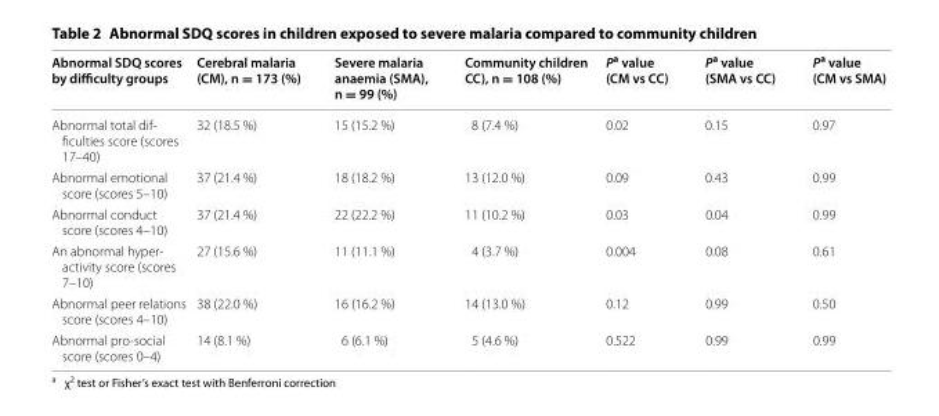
<table><thead><tr><td>Abnormal SDQ scores by difficulty groups</td><td>Cerebral malaria (CM), n = 173 (%)</td><td>Severe malaria anaemia (SMA), n = 99 (%)</td><td>Community children CC), n = 108 (%)</td><td>P<sup>a</sup> value (CM vs CC)</td><td>P<sup>a</sup> value (SMA vs CC)</td><td>P<sup>a</sup> value (CM vs SMA)</td></tr></thead><tbody><tr><td>Abnormal total dif‑ ficulties score (scores 17–40)</td><td>32 (18.5 %)</td><td>15 (15.2 %)</td><td>8 (7.4 %)</td><td>0.02</td><td>0.15</td><td>0.97</td></tr><tr><td>Abnormal emotional score (scores 5–10)</td><td>37 (21.4 %)</td><td>18 (18.2 %)</td><td>13 (12.0 %)</td><td>0.09</td><td>0.43</td><td>0.99</td></tr><tr><td>Abnormal conduct score (scores 4–10)</td><td>37 (21.4 %)</td><td>22 (22.2 %)</td><td>11 (10.2 %)</td><td>0.03</td><td>0.04</td><td>0.99</td></tr><tr><td>An abnormal hyper‑ activity score (scores 7–10)</td><td>27 (15.6 %)</td><td>11 (11.1 %)</td><td>4 (3.7 %)</td><td>0.004</td><td>0.08</td><td>0.61</td></tr><tr><td>Abnormal peer relations score (scores 4–10)</td><td>38 (22.0 %)</td><td>16 (16.2 %)</td><td>14 (13.0 %)</td><td>0.12</td><td>0.99</td><td>0.50</td></tr><tr><td>Abnormal pro‑social score (scores 0–4)</td><td>14 (8.1 %)</td><td>6 (6.1 %)</td><td>5 (4.6 %)</td><td>0.522</td><td>0.99</td><td>0.99</td></tr></tbody></table>